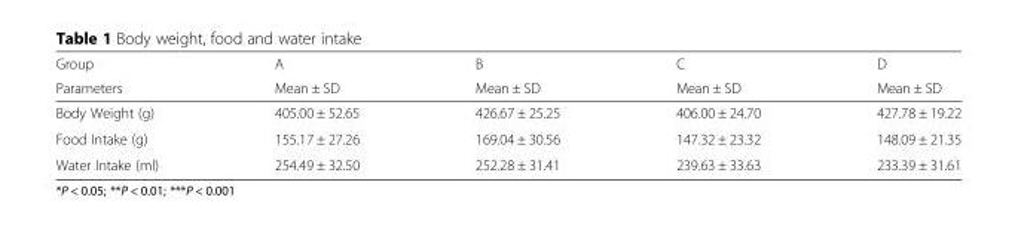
<table><thead><tr><td rowspan="2">Group Parameters</td><td rowspan="2">A Mean ± SD</td><td rowspan="2">B Mean ± SD</td><td rowspan="2">C Mean ± SD</td><td rowspan="2">D Mean ± SD</td></tr><tr></tr></thead><tbody><tr><td>Body Weight (g)</td><td>405.00 ± 52.65</td><td>426.67 ± 25.25</td><td>406.00 ± 24.70</td><td>427.78 ± 19.22</td></tr><tr><td>Food Intake (g)</td><td>155.17 ± 27.26</td><td>169.04 ± 30.56</td><td>147.32 ± 23.32</td><td>148.09 ± 21.35</td></tr><tr><td>Water Intake (ml)</td><td>254.49 ± 32.50</td><td>252.28 ± 31.41</td><td>239.63 ± 33.63</td><td>233.39 ± 31.61</td></tr></tbody></table>